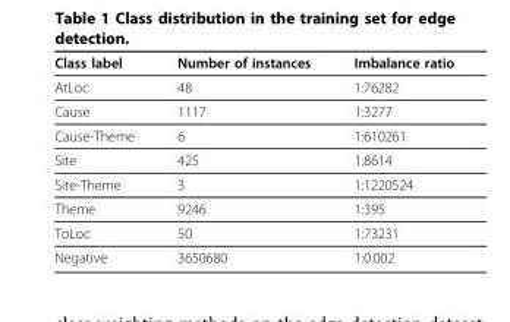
<table><thead><tr><td>Class label</td><td>Number of instances</td><td>Imbalance ratio</td></tr></thead><tbody><tr><td>AtLoc</td><td>48</td><td>1:76282</td></tr><tr><td>Cause</td><td>1117</td><td>1:3277</td></tr><tr><td>Cause-Theme</td><td>6</td><td>1:610261</td></tr><tr><td>Site</td><td>425</td><td>1:8614</td></tr><tr><td>Site-Theme</td><td>3</td><td>1:1220524</td></tr><tr><td>Theme</td><td>9246</td><td>1:395</td></tr><tr><td>ToLoc</td><td>50</td><td>1:73231</td></tr><tr><td>Negative</td><td>3650680</td><td>1:0.002</td></tr></tbody></table>